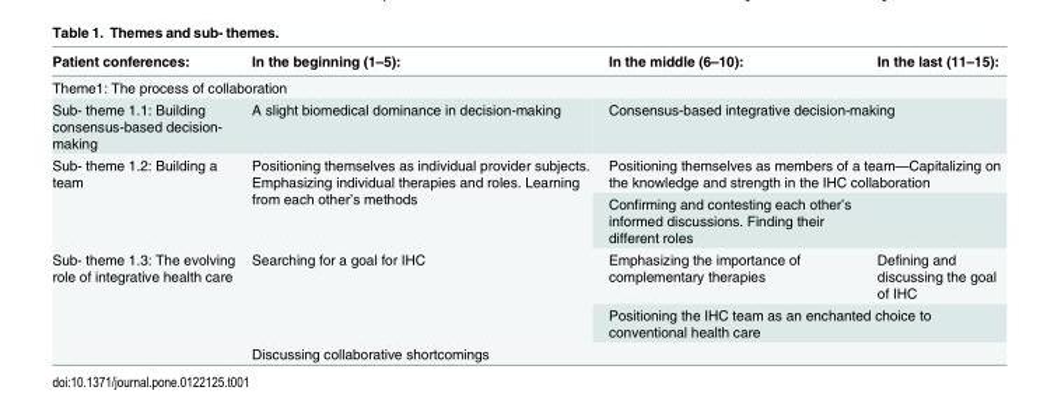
<table><thead><tr><td>Patient conferences:</td><td>In the beginning (1–5):</td><td>In the middle (6–10):</td><td>In the last (11–15):</td></tr></thead><tbody><tr><td colspan="4">Theme1: The process of collaboration</td></tr><tr><td>Sub- theme 1.1: Building consensus-based decision- making</td><td>A slight biomedical dominance in decision-making</td><td colspan="2">Consensus-based integrative decision-making</td></tr><tr><td rowspan="2">Sub- theme 1.2: Building a team</td><td rowspan="2">Positioning themselves as individual provider subjects. Emphasizing individual therapies and roles. Learning from each other’s methods</td><td colspan="2">Positioning themselves as members of a team—Capitalizing on the knowledge and strength in the IHC collaboration</td></tr><tr><td>Confirming and contesting each other’s informed discussions. Finding their different roles</td><td></td></tr><tr><td rowspan="3">Sub- theme 1.3: The evolving role of integrative health care</td><td rowspan="2">Searching for a goal for IHC</td><td>Emphasizing the importance of complementary therapies</td><td>Defining and discussing the goal of IHC</td></tr><tr><td colspan="2">Positioning the IHC team as an enchanted choice to conventional health care</td></tr><tr><td colspan="3">Discussing collaborative shortcomings</td></tr></tbody></table>